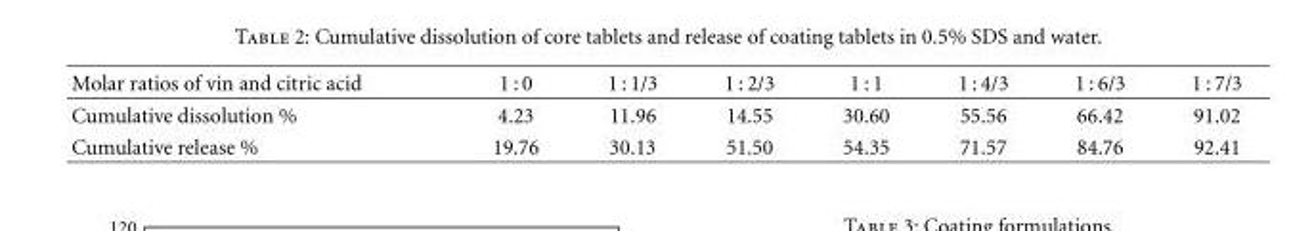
<table><thead><tr><td>Molar ratios of vin and citric acid</td><td>1 : 0</td><td>1 : 1/3</td><td>1 : 2/3</td><td>1 : 1</td><td>1 : 4/3</td><td>1 : 6/3</td><td>1 : 7/3</td></tr></thead><tbody><tr><td>Cumulative dissolution %</td><td>4.23</td><td>11.96</td><td>14.55</td><td>30.60</td><td>55.56</td><td>66.42</td><td>91.02</td></tr><tr><td>Cumulative release %</td><td>19.76</td><td>30.13</td><td>51.50</td><td>54.35</td><td>71.57</td><td>84.76</td><td>92.41</td></tr></tbody></table>